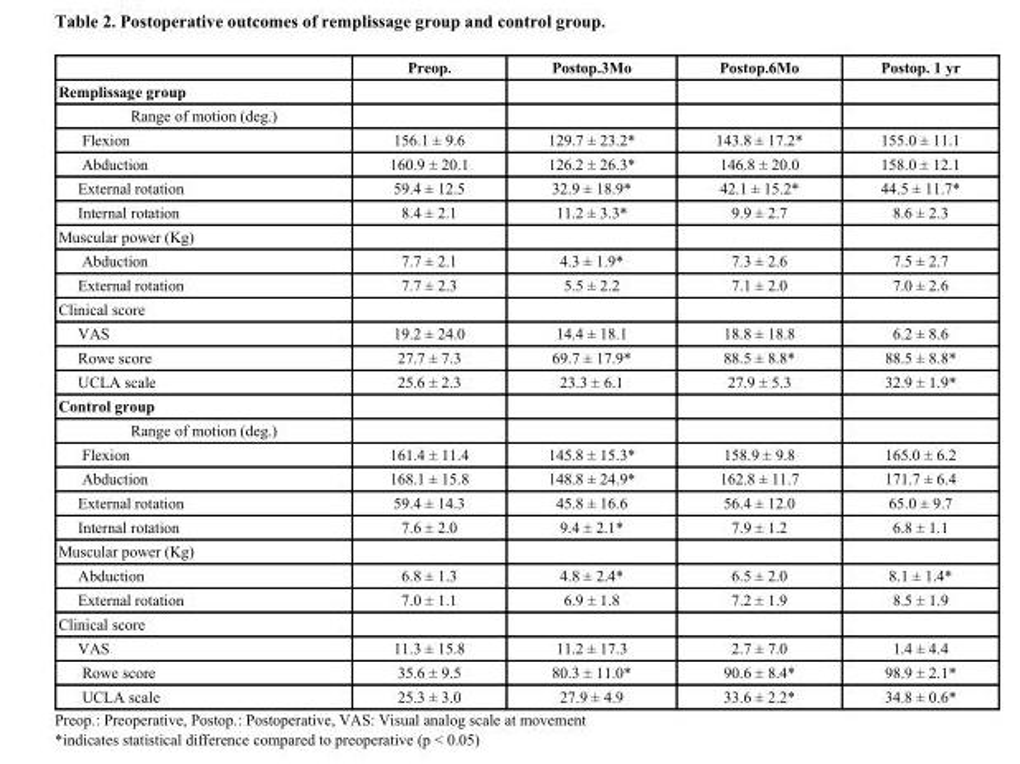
<table><thead><tr><td></td><td>Preop.</td><td>Postop.3Mo</td><td>Postop.6Mo</td><td>Postop. 1 yr</td></tr></thead><tbody><tr><td colspan="5">Remplissage group</td></tr><tr><td colspan="5">Range of motion (deg.)</td></tr><tr><td>Flexion</td><td>156.1 ± 9.6</td><td>129.7 ± 23.2*</td><td>143.8 ± 17.2*</td><td>155.0 ± 11.1</td></tr><tr><td>Abduction</td><td>160.9 ± 20.1</td><td>126.2 ± 26.3*</td><td>146.8 ± 20.0</td><td>158.0 ± 12.1</td></tr><tr><td>External rotation</td><td>59.4 ± 12.5</td><td>32.9 ± 18.9*</td><td>42.1 ± 15.2*</td><td>44.5 ± 11.7*</td></tr><tr><td>Internal rotation</td><td>8.4 ± 2.1</td><td>11.2 ± 3.3*</td><td>9.9 ± 2.7</td><td>8.6 ± 2.3</td></tr><tr><td colspan="5">Muscular power (Kg)</td></tr><tr><td>Abduction</td><td>7.7 ± 2.1</td><td>4.3 ± 1.9*</td><td>7.3 ± 2.6</td><td>7.5 ± 2.7</td></tr><tr><td>External rotation</td><td>7.7 ± 2.3</td><td>5.5 ± 2.2</td><td>7.1 ± 2.0</td><td>7.0 ± 2.6</td></tr><tr><td colspan="5">Clinical score</td></tr><tr><td>VAS</td><td>19.2 ± 24.0</td><td>14.4 ± 18.1</td><td>18.8 ± 18.8</td><td>6.2 ± 8.6</td></tr><tr><td>Rowe score</td><td>27.7 ± 7.3</td><td>69.7 ± 17.9*</td><td>88.5 ± 8.8*</td><td>88.5 ± 8.8*</td></tr><tr><td>UCLA scale</td><td>25.6 ± 2.3</td><td>23.3 ± 6.1</td><td>27.9 ± 5.3</td><td>32.9 ± 1.9*</td></tr><tr><td colspan="5">Control group</td></tr><tr><td colspan="5">Range of motion (deg.)</td></tr><tr><td>Flexion</td><td>161.4 ± 11.4</td><td>145.8 ± 15.3*</td><td>158.9 ± 9.8</td><td>165.0 ± 6.2</td></tr><tr><td>Abduction</td><td>168.1 ± 15.8</td><td>148.8 ± 24.9*</td><td>162.8 ± 11.7</td><td>171.7 ± 6.4</td></tr><tr><td>External rotation</td><td>59.4 ± 14.3</td><td>45.8 ± 16.6</td><td>56.4 ± 12.0</td><td>65.0 ± 9.7</td></tr><tr><td>Internal rotation</td><td>7.6 ± 2.0</td><td>9.4 ± 2.1*</td><td>7.9 ± 1.2</td><td>6.8 ± 1.1</td></tr><tr><td colspan="5">Muscular power (Kg)</td></tr><tr><td>Abduction</td><td>6.8 ± 1.3</td><td>4.8 ± 2.4*</td><td>6.5 ± 2.0</td><td>8.1 ± 1.4*</td></tr><tr><td>External rotation</td><td>7.0 ± 1.1</td><td>6.9 ± 1.8</td><td>7.2 ± 1.9</td><td>8.5 ± 1.9</td></tr><tr><td colspan="5">Clinical score</td></tr><tr><td>VAS</td><td>11.3 ± 15.8</td><td>11.2 ± 17.3</td><td>2.7 ± 7.0</td><td>1.4 ± 4.4</td></tr><tr><td>Rowe score</td><td>35.6 ± 9.5</td><td>80.3 ± 11.0*</td><td>90.6 ± 8.4*</td><td>98.9 ± 2.1*</td></tr><tr><td>UCLA scale</td><td>25.3 ± 3.0</td><td>27.9 ± 4.9</td><td>33.6 ± 2.2*</td><td>34.8 ± 0.6*</td></tr></tbody></table>